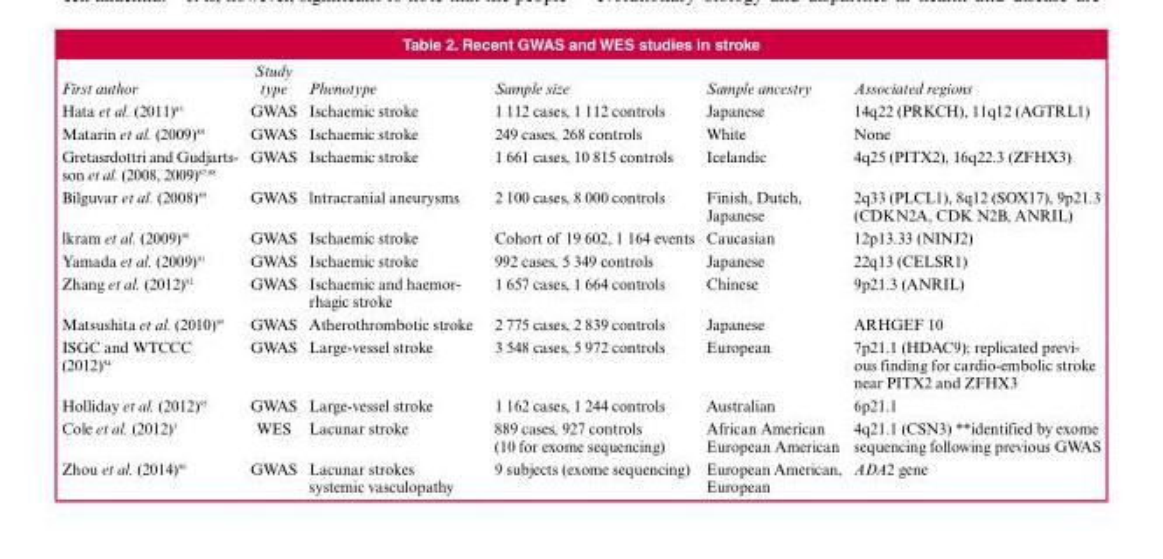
<table><thead><tr><td>First author</td><td>Study type</td><td>Phenotype</td><td>Sample size</td><td>Sample ancestry</td><td>Associated regions</td></tr></thead><tbody><tr><td>Hata et al. (2011)<sup>85</sup></td><td>GWAS</td><td>Ischaemic stroke</td><td>1 112 cases, 1 112 controls</td><td>Japanese</td><td>14q22 (PRKCH), 11q12 (AGTRL1)</td></tr><tr><td>Matarin et al. (2009)<sup>89</sup></td><td>GWAS</td><td>Ischaemic stroke</td><td>249 cases, 268 controls</td><td>White</td><td>None</td></tr><tr><td>Gretasrdottri and Gudjarts- son et al. (2008, 2009)87,88</td><td>GWAS</td><td>Ischaemic stroke</td><td>1 661 cases, 10 815 controls</td><td>Icelandic</td><td>4q25 (PITX2), 16q22.3 (ZFHX3)</td></tr><tr><td>Bilguvar et al. (2008)<sup>89</sup></td><td>GWAS</td><td>lntracranial aneurysms</td><td>2 100 cases, 8 000 controls</td><td>Finish, Dutch, Japanese</td><td>2q33 (PLCL1), 8q12 (SOX17), 9p21.3 (CDKN2A, CDK N2B, ANRIL)</td></tr><tr><td>lkram et al. (2009)<sup>90</sup></td><td>GWAS</td><td>Ischaemic stroke</td><td>Cohort of 19 602, 1 164 events</td><td>Caucasian</td><td>12p13.33 (NINJ2)</td></tr><tr><td>Yamada et al. (2009)<sup>91</sup></td><td>GWAS</td><td>Ischaemic stroke</td><td>992 cases, 5 349 controls</td><td>Japanese</td><td>22q13 (CELSR1)</td></tr><tr><td>Zhang et al. (2012)<sup>92</sup></td><td>GWAS</td><td>Ischaemic and haemor- rhagic stroke</td><td>1 657 cases, 1 664 controls</td><td>Chinese</td><td>9p21.3 (ANRIL)</td></tr><tr><td>Matsushita et al. (2010)<sup>93</sup></td><td>GWAS</td><td>Atherothrombotic stroke</td><td>2 775 cases, 2 839 controls</td><td>Japanese</td><td>ARHGEF 10</td></tr><tr><td>ISGC and WTCCC (2012)<sup>94</sup></td><td>GWAS</td><td>Large-vessel stroke</td><td>3 548 cases, 5 972 controls</td><td>European</td><td>7p21.1 (HDAC9); replicated previ- ous finding for cardio-embolic stroke near PITX2 and ZFHX3</td></tr><tr><td>Holliday et al. (2012)<sup>95</sup></td><td>GWAS</td><td>Large-vessel stroke</td><td>1 162 cases, 1 244 controls</td><td>Australian</td><td>6p21.1</td></tr><tr><td>Cole et al. (2012)<sup>3</sup></td><td>WES</td><td>Lacunar stroke</td><td>889 cases, 927 controls (10 for exome sequencing)</td><td>African American European American</td><td>4q21.1 (CSN3) **identified by exome sequencing following previous GWAS</td></tr><tr><td>Zhou et al. (2014)<sup>96</sup></td><td>GWAS</td><td>Lacunar strokes systemic vasculopathy</td><td>9 subjects (exome sequencing)</td><td>European American, European</td><td>ADA2 gene</td></tr></tbody></table>